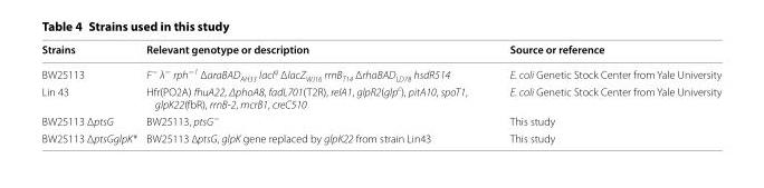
<table><thead><tr><td>Strains</td><td>Relevant genotype or description</td><td>Source or reference</td></tr></thead><tbody><tr><td>BW25113</td><td>F<sup>−</sup> λ<sup>−</sup> rph<sup>−1</sup> ΔaraBAD<sub>AH33</sub> lacI<sup>q</sup> ΔlacZ<sub>WJ16</sub> rrnB<sub>T14</sub> ΔrhaBAD<sub>LD78</sub> hsdR514</td><td>E. coli Genetic Stock Center from Yale University</td></tr><tr><td>Lin 43</td><td>Hfr(PO2A) fhuA22, ΔphoA8, fadL701(T2R), relA1, glpR2(glp<sup>c</sup>), pitA10, spoT1, glpK22(fbR), rrnB-2, mcrB1, creC510</td><td>E. coli Genetic Stock Center from Yale University</td></tr><tr><td>BW25113 ΔptsG</td><td>BW25113, ptsG<sup>−</sup></td><td>This study</td></tr><tr><td>BW25113 ΔptsGglpK*</td><td>BW25113 ∆ptsG, glpK gene replaced by glpK22 from strain Lin43</td><td>This study</td></tr></tbody></table>